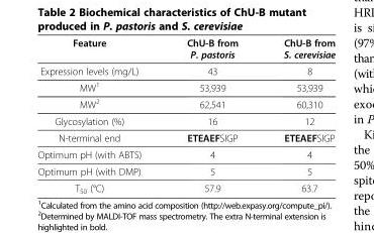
<table><thead><tr><td>Feature</td><td>ChU-B from P. pastoris</td><td>ChU-B from S. cerevisiae</td></tr></thead><tbody><tr><td>Expression levels (mg/L)</td><td>43</td><td>8</td></tr><tr><td>MW<sup>1</sup></td><td>53,939</td><td>53,939</td></tr><tr><td>MW<sup>2</sup></td><td>62,541</td><td>60,310</td></tr><tr><td>Glycosylation (%)</td><td>16</td><td>12</td></tr><tr><td>N-terminal end</td><td>ETEAEFSIGP</td><td>ETEAEFSIGP</td></tr><tr><td>Optimum pH (with ABTS)</td><td>4</td><td>4</td></tr><tr><td>Optimum pH (with DMP)</td><td>5</td><td>5</td></tr><tr><td>T<sub>50</sub> (°C)</td><td>57.9</td><td>63.7</td></tr></tbody></table>